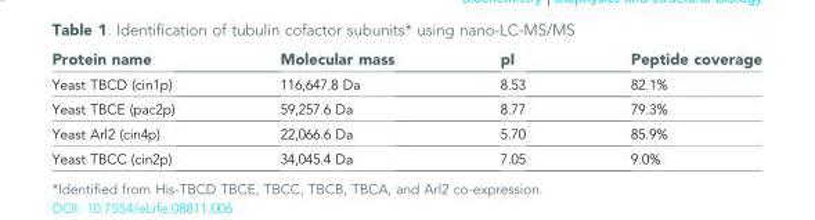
<table><thead><tr><td>Protein name</td><td>Molecular mass</td><td>pI</td><td>Peptide coverage</td></tr></thead><tbody><tr><td>Yeast TBCD (cin1p)</td><td>116,647.8 Da</td><td>8.53</td><td>82.1%</td></tr><tr><td>Yeast TBCE (pac2p)</td><td>59,257.6 Da</td><td>8.77</td><td>79.3%</td></tr><tr><td>Yeast Arl2 (cin4p)</td><td>22,066.6 Da</td><td>5.70</td><td>85.9%</td></tr><tr><td>Yeast TBCC (cin2p)</td><td>34,045.4 Da</td><td>7.05</td><td>9.0%</td></tr></tbody></table>